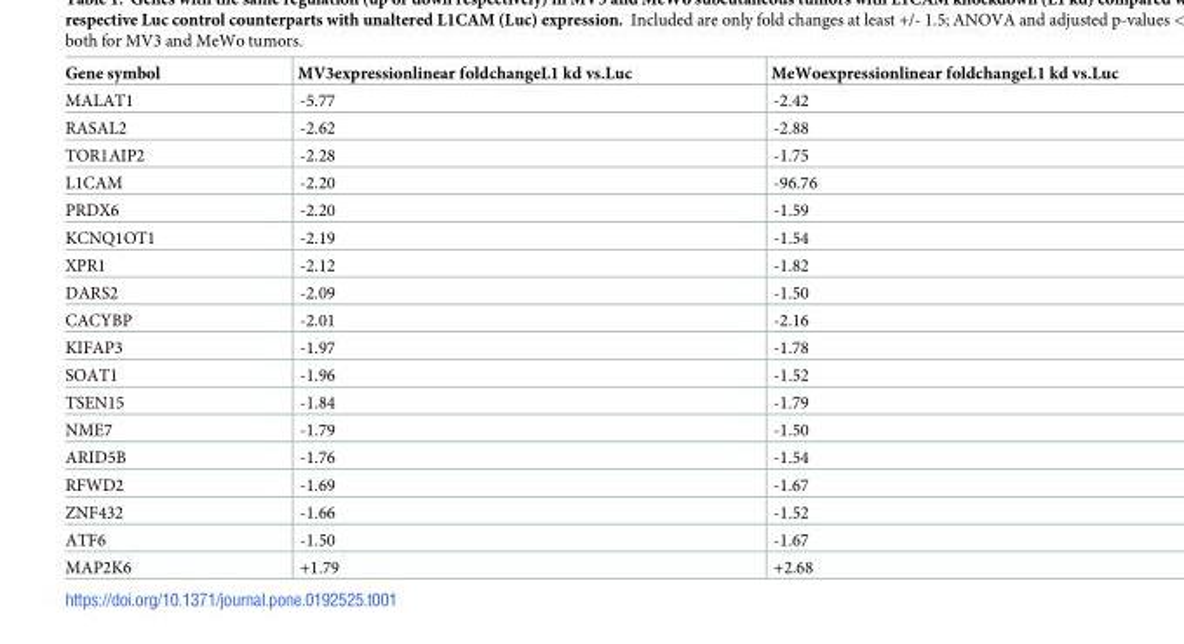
<table><thead><tr><td>Gene symbol</td><td>MV3expressionlinear foldchangeL1 kd vs.Luc</td><td>MeWoexpressionlinear foldchangeL1 kd vs.Luc</td></tr></thead><tbody><tr><td>MALAT1</td><td>-5.77</td><td>-2.42</td></tr><tr><td>RASAL2</td><td>-2.62</td><td>-2.88</td></tr><tr><td>TOR1AIP2</td><td>-2.28</td><td>-1.75</td></tr><tr><td>L1CAM</td><td>-2.20</td><td>-96.76</td></tr><tr><td>PRDX6</td><td>-2.20</td><td>-1.59</td></tr><tr><td>KCNQ1OT1</td><td>-2.19</td><td>-1.54</td></tr><tr><td>XPR1</td><td>-2.12</td><td>-1.82</td></tr><tr><td>DARS2</td><td>-2.09</td><td>-1.50</td></tr><tr><td>CACYBP</td><td>-2.01</td><td>-2.16</td></tr><tr><td>KIFAP3</td><td>-1.97</td><td>-1.78</td></tr><tr><td>SOAT1</td><td>-1.96</td><td>-1.52</td></tr><tr><td>TSEN15</td><td>-1.84</td><td>-1.79</td></tr><tr><td>NME7</td><td>-1.79</td><td>-1.50</td></tr><tr><td>ARID5B</td><td>-1.76</td><td>-1.54</td></tr><tr><td>RFWD2</td><td>-1.69</td><td>-1.67</td></tr><tr><td>ZNF432</td><td>-1.66</td><td>-1.52</td></tr><tr><td>ATF6</td><td>-1.50</td><td>-1.67</td></tr><tr><td>MAP2K6</td><td>+1.79</td><td>+2.68</td></tr></tbody></table>